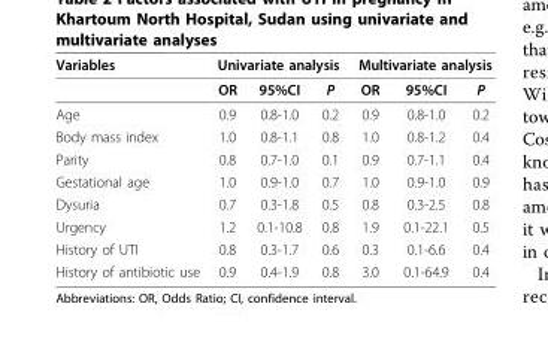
<table><thead><tr><td rowspan="2">Variables</td><td colspan="3">Univariate analysis</td><td colspan="3">Multivariate analysis</td></tr><tr><td>OR</td><td>95%CI</td><td>P</td><td>OR</td><td>95%CI</td><td>P</td></tr></thead><tbody><tr><td>Age</td><td>0.9</td><td>0.8-1.0</td><td>0.2</td><td>0.9</td><td>0.8-1.0</td><td>0.2</td></tr><tr><td>Body mass index</td><td>1.0</td><td>0.8-1.1</td><td>0.8</td><td>1.0</td><td>0.8-1.2</td><td>0.4</td></tr><tr><td>Parity</td><td>0.8</td><td>0.7-1.0</td><td>0.1</td><td>0.9</td><td>0.7-1.1</td><td>0.4</td></tr><tr><td>Gestational age</td><td>1.0</td><td>0.9-1.0</td><td>0.7</td><td>1.0</td><td>0.9-1.0</td><td>0.9</td></tr><tr><td>Dysuria</td><td>0.7</td><td>0.3-1.8</td><td>0.5</td><td>0.8</td><td>0.3-2.5</td><td>0.8</td></tr><tr><td>Urgency</td><td>1.2</td><td>0.1-10.8</td><td>0.8</td><td>1.9</td><td>0.1-22.1</td><td>0.5</td></tr><tr><td>History of UTI</td><td>0.8</td><td>0.3-1.7</td><td>0.6</td><td>0.3</td><td>0.1-6.6</td><td>0.4</td></tr><tr><td>History of antibiotic use</td><td>0.9</td><td>0.4-1.9</td><td>0.8</td><td>3.0</td><td>0.1-64.9</td><td>0.4</td></tr></tbody></table>